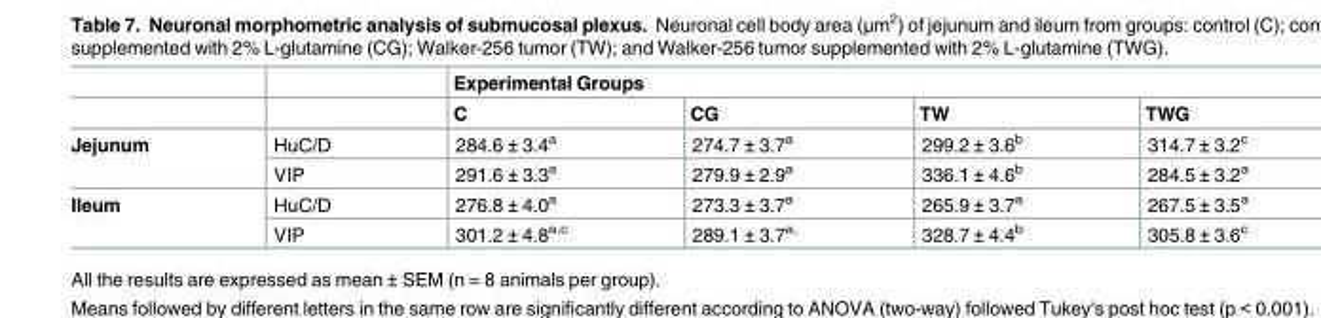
<table><thead><tr><td rowspan="2"></td><td rowspan="2"></td><td colspan="4">Experimental Groups</td></tr><tr><td>C</td><td>CG</td><td>TW</td><td>TWG</td></tr></thead><tbody><tr><td rowspan="2">Jejunum</td><td>HuC/D</td><td>284.6 ± 3.4<sup>a</sup></td><td>274.7 ± 3.7<sup>a</sup></td><td>299.2 ± 3.6<sup>b</sup></td><td>314.7 ± 3.2<sup>c</sup></td></tr><tr><td>VIP</td><td>291.6 ± 3.3<sup>a</sup></td><td>279.9 ± 2.9<sup>a</sup></td><td>336.1 ± 4.6<sup>b</sup></td><td>284.5 ± 3.2<sup>a</sup></td></tr><tr><td rowspan="2">Ileum</td><td>HuC/D</td><td>276.8 ± 4.0<sup>a</sup></td><td>273.3 ± 3.7<sup>a</sup></td><td>265.9 ± 3.7<sup>a</sup></td><td>267.5 ± 3.5<sup>a</sup></td></tr><tr><td>VIP</td><td>301.2 ± 4.8<sup>a,c</sup></td><td>289.1 ± 3.7<sup>a,</sup></td><td>328.7 ± 4.4<sup>b</sup></td><td>305.8 ± 3.6<sup>c</sup></td></tr></tbody></table>